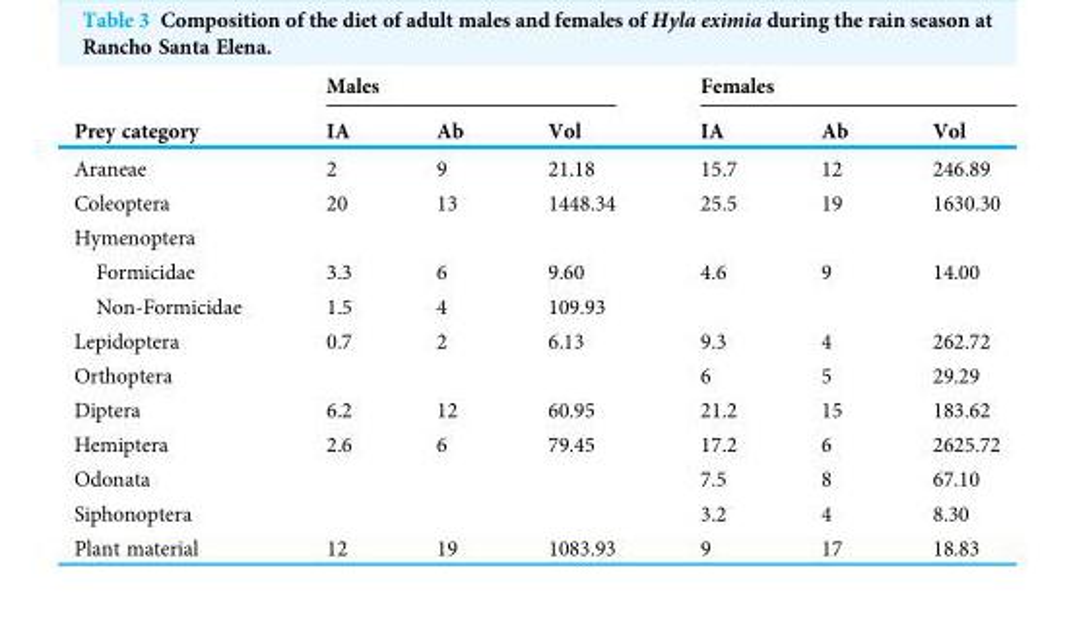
<table><thead><tr><td rowspan="2">Prey category</td><td colspan="3">Males</td><td colspan="3">Females</td></tr><tr><td>IA</td><td>Ab</td><td>Vol</td><td>IA</td><td>Ab</td><td>Vol</td></tr></thead><tbody><tr><td>Araneae</td><td>2</td><td>9</td><td>21.18</td><td>15.7</td><td>12</td><td>246.89</td></tr><tr><td>Coleoptera</td><td>20</td><td>13</td><td>1448.34</td><td>25.5</td><td>19</td><td>1630.30</td></tr><tr><td colspan="7">Hymenoptera</td></tr><tr><td>Formicidae</td><td>3.3</td><td>6</td><td>9.60</td><td>4.6</td><td>9</td><td>14.00</td></tr><tr><td>Non-Formicidae</td><td>1.5</td><td>4</td><td>109.93</td><td></td><td></td><td></td></tr><tr><td>Lepidoptera</td><td>0.7</td><td>2</td><td>6.13</td><td>9.3</td><td>4</td><td>262.72</td></tr><tr><td>Orthoptera</td><td></td><td></td><td></td><td>6</td><td>5</td><td>29.29</td></tr><tr><td>Diptera</td><td>6.2</td><td>12</td><td>60.95</td><td>21.2</td><td>15</td><td>183.62</td></tr><tr><td>Hemiptera</td><td>2.6</td><td>6</td><td>79.45</td><td>17.2</td><td>6</td><td>2625.72</td></tr><tr><td>Odonata</td><td></td><td></td><td></td><td>7.5</td><td>8</td><td>67.10</td></tr><tr><td>Siphonoptera</td><td></td><td></td><td></td><td>3.2</td><td>4</td><td>8.30</td></tr><tr><td>Plant material</td><td>12</td><td>19</td><td>1083.93</td><td>9</td><td>17</td><td>18.83</td></tr></tbody></table>